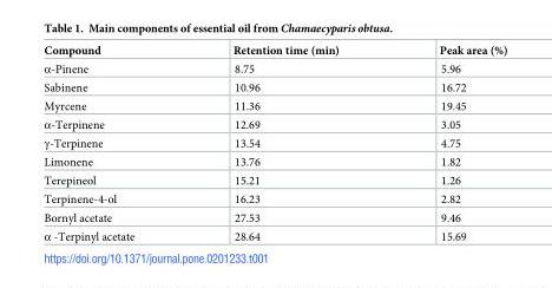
<table><thead><tr><td>Compound</td><td>Retention time (min)</td><td>Peak area (%)</td></tr></thead><tbody><tr><td>α-Pinene</td><td>8.75</td><td>5.96</td></tr><tr><td>Sabinene</td><td>10.96</td><td>16.72</td></tr><tr><td>Myrcene</td><td>11.36</td><td>19.45</td></tr><tr><td>α-Terpinene</td><td>12.69</td><td>3.05</td></tr><tr><td>γ-Terpinene</td><td>13.54</td><td>4.75</td></tr><tr><td>Limonene</td><td>13.76</td><td>1.82</td></tr><tr><td>Terepineol</td><td>15.21</td><td>1.26</td></tr><tr><td>Terpinene-4-ol</td><td>16.23</td><td>2.82</td></tr><tr><td>Bornyl acetate</td><td>27.53</td><td>9.46</td></tr><tr><td>α -Terpinyl acetate</td><td>28.64</td><td>15.69</td></tr></tbody></table>